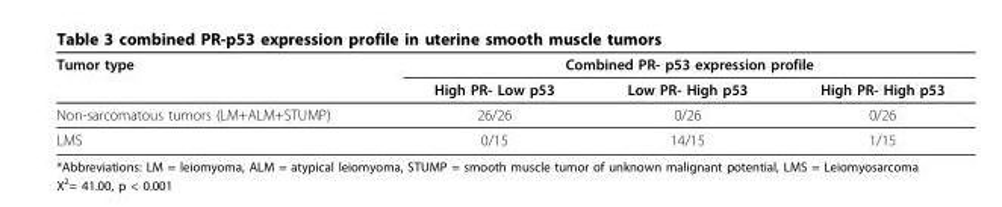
<table><thead><tr><td rowspan="2">Tumor type</td><td colspan="3">Combined PR- p53 expression profile</td></tr><tr><td>High PR- Low p53</td><td>Low PR- High p53</td><td>High PR- High p53</td></tr></thead><tbody><tr><td>Non-sarcomatous tumors (LM+ALM+STUMP)</td><td>26/26</td><td>0/26</td><td>0/26</td></tr><tr><td>LMS</td><td>0/15</td><td>14/15</td><td>1/15</td></tr></tbody></table>